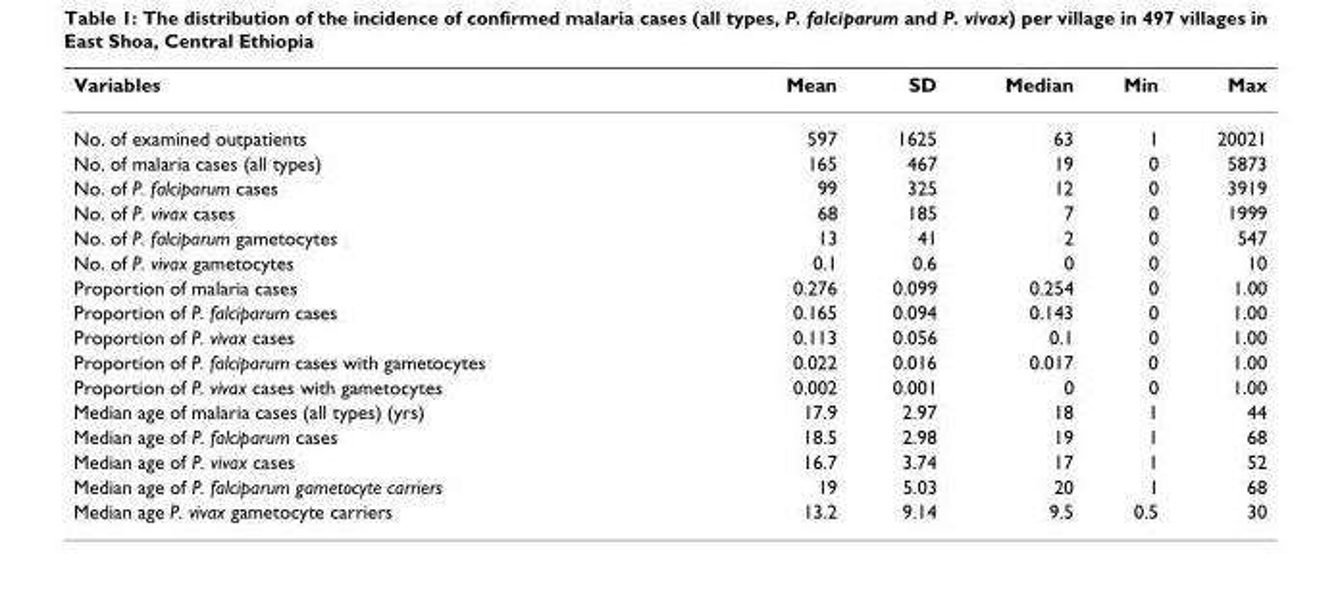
<table><thead><tr><td>Variables</td><td>Mean</td><td>SD</td><td>Median</td><td>Min</td><td>Max</td></tr></thead><tbody><tr><td>No. of examined outpatients</td><td>597</td><td>1625</td><td>63</td><td>1</td><td>20021</td></tr><tr><td>No. of malaria cases (all types)</td><td>165</td><td>467</td><td>19</td><td>0</td><td>5873</td></tr><tr><td>No. of P. falciparum cases</td><td>99</td><td>325</td><td>12</td><td>0</td><td>3919</td></tr><tr><td>No. of P. vivax cases</td><td>68</td><td>185</td><td>7</td><td>0</td><td>1999</td></tr><tr><td>No. of P. falciparum gametocytes</td><td>13</td><td>41</td><td>2</td><td>0</td><td>547</td></tr><tr><td>No. of P. vivax gametocytes</td><td>0.1</td><td>0.6</td><td>0</td><td>0</td><td>10</td></tr><tr><td>Proportion of malaria cases</td><td>0.276</td><td>0.099</td><td>0.254</td><td>0</td><td>1.00</td></tr><tr><td>Proportion of P. falciparum cases</td><td>0.165</td><td>0.094</td><td>0.143</td><td>0</td><td>1.00</td></tr><tr><td>Proportion of P. vivax cases</td><td>0.113</td><td>0.056</td><td>0.1</td><td>0</td><td>1.00</td></tr><tr><td>Proportion of P. falciparum cases with gametocytes</td><td>0.022</td><td>0.016</td><td>0.017</td><td>0</td><td>1.00</td></tr><tr><td>Proportion of P. vivax cases with gametocytes</td><td>0.002</td><td>0.001</td><td>0</td><td>0</td><td>1.00</td></tr><tr><td>Median age of malaria cases (all types) (yrs)</td><td>17.9</td><td>2.97</td><td>18</td><td>1</td><td>44</td></tr><tr><td>Median age of P. falciparum cases</td><td>18.5</td><td>2.98</td><td>19</td><td>1</td><td>68</td></tr><tr><td>Median age of P. vivax cases</td><td>16.7</td><td>3.74</td><td>17</td><td>1</td><td>52</td></tr><tr><td>Median age of P. falciparum gametocyte carriers</td><td>19</td><td>5.03</td><td>20</td><td>1</td><td>68</td></tr><tr><td>Median age P. vivax gametocyte carriers</td><td>13.2</td><td>9.14</td><td>9.5</td><td>0.5</td><td>30</td></tr></tbody></table>